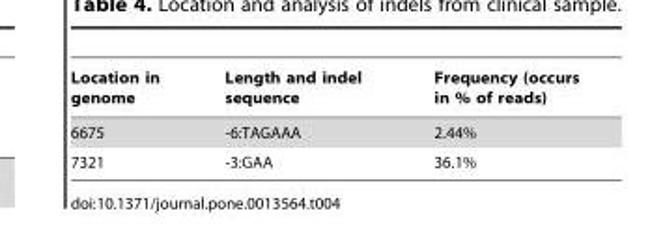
<table><thead><tr><td>Location in genome</td><td>Length and indel sequence</td><td>Frequency (occurs in % of reads)</td></tr></thead><tbody><tr><td>6675</td><td>-6:TAGAAA</td><td>2.44%</td></tr><tr><td>7321</td><td>-3:GAA</td><td>36.1%</td></tr></tbody></table>